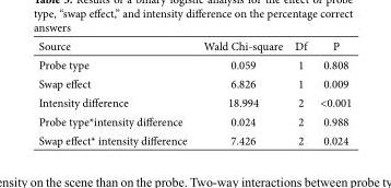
<table><thead><tr><td>Source</td><td>Wald Chi-square</td><td>Df</td><td>P</td></tr></thead><tbody><tr><td>Probe type</td><td>0.059</td><td>1</td><td>0.808</td></tr><tr><td>Swap effect</td><td>6.826</td><td>1</td><td>0.009</td></tr><tr><td>Intensity difference</td><td>18.994</td><td>2</td><td>&lt;0.001</td></tr><tr><td>Probe type*intensity difference</td><td>0.024</td><td>2</td><td>0.988</td></tr><tr><td>Swap effect* intensity difference</td><td>7.426</td><td>2</td><td>0.024</td></tr></tbody></table>